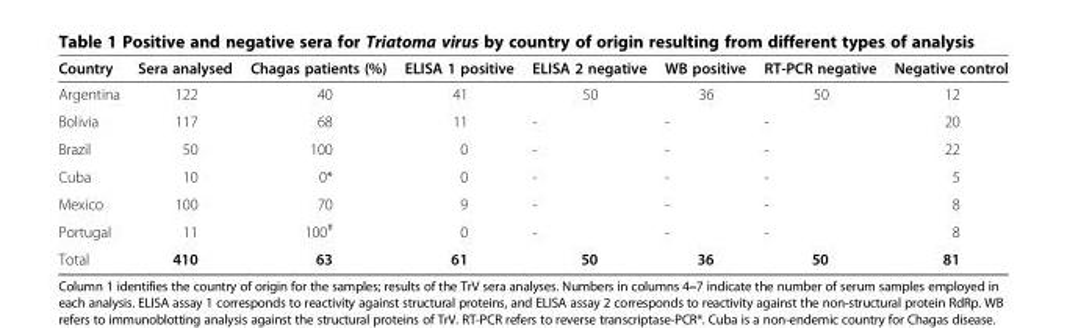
<table><thead><tr><td>Country</td><td>Sera analysed</td><td>Chagas patients (%)</td><td>ELISA 1 positive</td><td>ELISA 2 negative</td><td>WB positive</td><td>RT-PCR negative</td><td>Negative control</td></tr></thead><tbody><tr><td>Argentina</td><td>122</td><td>40</td><td>41</td><td>50</td><td>36</td><td>50</td><td>12</td></tr><tr><td>Bolivia</td><td>117</td><td>68</td><td>11</td><td>-</td><td>-</td><td>-</td><td>20</td></tr><tr><td>Brazil</td><td>50</td><td>100</td><td>0</td><td>-</td><td>-</td><td>-</td><td>22</td></tr><tr><td>Cuba</td><td>10</td><td>0*</td><td>0</td><td>-</td><td>-</td><td>-</td><td>5</td></tr><tr><td>Mexico</td><td>100</td><td>70</td><td>9</td><td>-</td><td>-</td><td>-</td><td>8</td></tr><tr><td>Portugal</td><td>11</td><td>100<sup>#</sup></td><td>0</td><td>-</td><td>-</td><td>-</td><td>8</td></tr><tr><td>Total</td><td>410</td><td>63</td><td>61</td><td>50</td><td>36</td><td>50</td><td>81</td></tr></tbody></table>